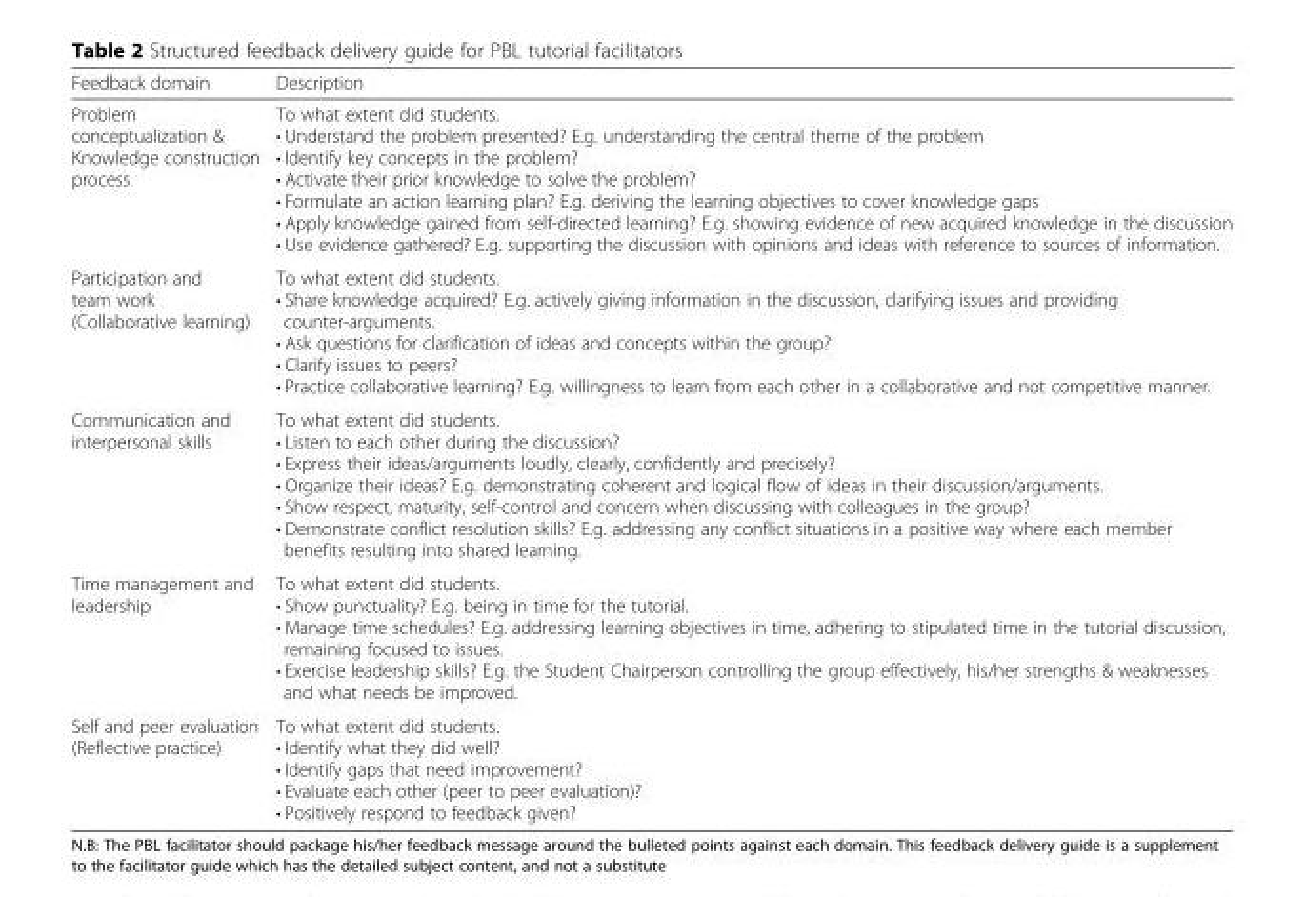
<table><thead><tr><td>Feedback domain</td><td>Description</td></tr></thead><tbody><tr><td>Problem conceptualization &amp; Knowledge construction process</td><td>To what extent did students. • Understand the problem presented? E.g. understanding the central theme of the problem • Identify key concepts in the problem? • Activate their prior knowledge to solve the problem? • Formulate an action learning plan? E.g. deriving the learning objectives to cover knowledge gaps • Apply knowledge gained from self-directed learning? E.g. showing evidence of new acquired knowledge in the discussion • Use evidence gathered? E.g. supporting the discussion with opinions and ideas with reference to sources of information.</td></tr><tr><td>Participation and team work (Collaborative learning)</td><td>To what extent did students. • Share knowledge acquired? E.g. actively giving information in the discussion, clarifying issues and providing counter-arguments. • Ask questions for clarification of ideas and concepts within the group? • Clarify issues to peers? • Practice collaborative learning? E.g. willingness to learn from each other in a collaborative and not competitive manner.</td></tr><tr><td>Communication and interpersonal skills</td><td>To what extent did students. • Listen to each other during the discussion? • Express their ideas/arguments loudly, clearly, confidently and precisely? • Organize their ideas? E.g. demonstrating coherent and logical flow of ideas in their discussion/arguments. • Show respect, maturity, self-control and concern when discussing with colleagues in the group? • Demonstrate conflict resolution skills? E.g. addressing any conflict situations in a positive way where each member benefits resulting into shared learning.</td></tr><tr><td>Time management and leadership</td><td>To what extent did students. • Show punctuality? E.g. being in time for the tutorial. • Manage time schedules? E.g. addressing learning objectives in time, adhering to stipulated time in the tutorial discussion, remaining focused to issues. • Exercise leadership skills? E.g. the Student Chairperson controlling the group effectively, his/her strengths &amp; weaknesses and what needs be improved.</td></tr><tr><td>Self and peer evaluation (Reflective practice)</td><td>To what extent did students. • Identify what they did well? • Identify gaps that need improvement? • Evaluate each other (peer to peer evaluation)? • Positively respond to feedback given?</td></tr></tbody></table>